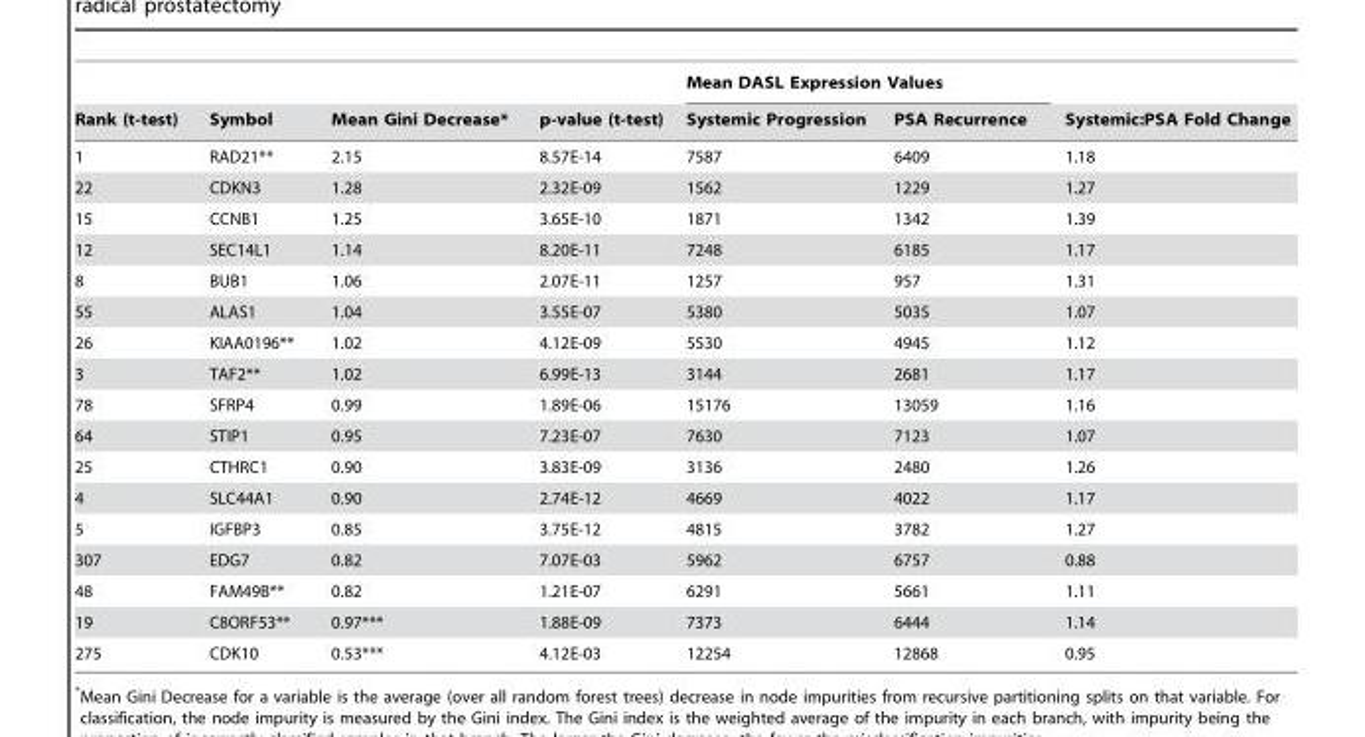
<table><thead><tr><td rowspan="2">Rank (t-test)</td><td rowspan="2">Symbol</td><td rowspan="2">Mean Gini Decrease*</td><td rowspan="2">p-value (t-test)</td><td colspan="2">Mean DASL Expression Values</td><td rowspan="2">Systemic:PSA Fold Change</td></tr><tr><td>Systemic Progression</td><td>PSA Recurrence</td></tr></thead><tbody><tr><td>1</td><td>RAD21**</td><td>2.15</td><td>8.57E-14</td><td>7587</td><td>6409</td><td>1.18</td></tr><tr><td>22</td><td>CDKN3</td><td>1.28</td><td>2.32E-09</td><td>1562</td><td>1229</td><td>1.27</td></tr><tr><td>15</td><td>CCNB1</td><td>1.25</td><td>3.65E-10</td><td>1871</td><td>1342</td><td>1.39</td></tr><tr><td>12</td><td>SEC14L1</td><td>1.14</td><td>8.20E-11</td><td>7248</td><td>6185</td><td>1.17</td></tr><tr><td>8</td><td>BUB1</td><td>1.06</td><td>2.07E-11</td><td>1257</td><td>957</td><td>1.31</td></tr><tr><td>55</td><td>ALAS1</td><td>1.04</td><td>3.55E-07</td><td>5380</td><td>5035</td><td>1.07</td></tr><tr><td>26</td><td>KIAA0196**</td><td>1.02</td><td>4.12E-09</td><td>5530</td><td>4945</td><td>1.12</td></tr><tr><td>3</td><td>TAF2**</td><td>1.02</td><td>6.99E-13</td><td>3144</td><td>2681</td><td>1.17</td></tr><tr><td>78</td><td>SFRP4</td><td>0.99</td><td>1.89E-06</td><td>15176</td><td>13059</td><td>1.16</td></tr><tr><td>64</td><td>STIP1</td><td>0.95</td><td>7.23E-07</td><td>7630</td><td>7123</td><td>1.07</td></tr><tr><td>25</td><td>CTHRC1</td><td>0.90</td><td>3.83E-09</td><td>3136</td><td>2480</td><td>1.26</td></tr><tr><td>4</td><td>SLC44A1</td><td>0.90</td><td>2.74E-12</td><td>4669</td><td>4022</td><td>1.17</td></tr><tr><td>5</td><td>IGFBP3</td><td>0.85</td><td>3.75E-12</td><td>4815</td><td>3782</td><td>1.27</td></tr><tr><td>307</td><td>EDG7</td><td>0.82</td><td>7.07E-03</td><td>5962</td><td>6757</td><td>0.88</td></tr><tr><td>48</td><td>FAM49B**</td><td>0.82</td><td>1.21E-07</td><td>6291</td><td>5661</td><td>1.11</td></tr><tr><td>19</td><td>C8ORF53**</td><td>0.97***</td><td>1.88E-09</td><td>7373</td><td>6444</td><td>1.14</td></tr><tr><td>275</td><td>CDK10</td><td>0.53***</td><td>4.12E-03</td><td>12254</td><td>12868</td><td>0.95</td></tr></tbody></table>